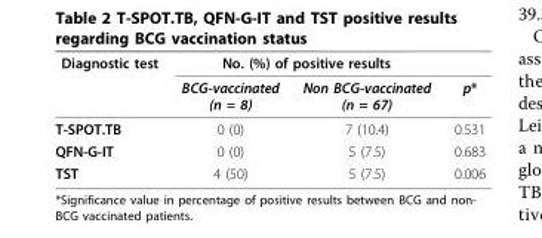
<table><thead><tr><td rowspan="2">Diagnostic test</td><td colspan="2">No. (%) of positive results</td><td rowspan="2">p*</td></tr><tr><td>BCG-vaccinated (n = 8)</td><td>Non BCG-vaccinated (n = 67)</td></tr></thead><tbody><tr><td>T-SPOT.TB</td><td>0 (0)</td><td>7 (10.4)</td><td>0.531</td></tr><tr><td>QFN-G-IT</td><td>0 (0)</td><td>5 (7.5)</td><td>0.683</td></tr><tr><td>TST</td><td>4 (50)</td><td>5 (7.5)</td><td>0.006</td></tr></tbody></table>